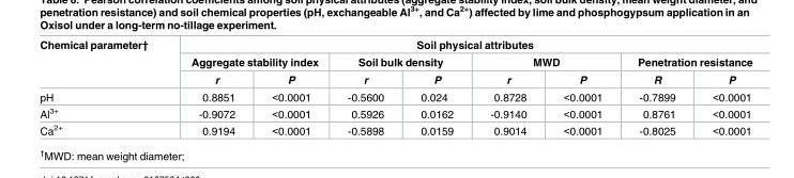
<table><thead><tr><td rowspan="3">Chemical parameter†</td><td colspan="8">Soil physical attributes</td></tr><tr><td colspan="2">Aggregate stability index</td><td colspan="2">Soil bulk density</td><td colspan="2">MWD</td><td colspan="2">Penetration resistance</td></tr><tr><td>r</td><td>P</td><td>r</td><td>P</td><td>r</td><td>P</td><td>R</td><td>P</td></tr></thead><tbody><tr><td>pH</td><td>0.8851</td><td>&lt;0.0001</td><td>-0.5600</td><td>0.024</td><td>0.8728</td><td>&lt;0.0001</td><td>-0.7899</td><td>&lt;0.0001</td></tr><tr><td>Al<sup>3+</sup></td><td>-0.9072</td><td>&lt;0.0001</td><td>0.5926</td><td>0.0162</td><td>-0.9140</td><td>&lt;0.0001</td><td>0.8761</td><td>&lt;0.0001</td></tr><tr><td>Ca<sup>2+</sup></td><td>0.9194</td><td>&lt;0.0001</td><td>-0.5898</td><td>0.0159</td><td>0.9014</td><td>&lt;0.0001</td><td>-0.8025</td><td>&lt;0.0001</td></tr></tbody></table>